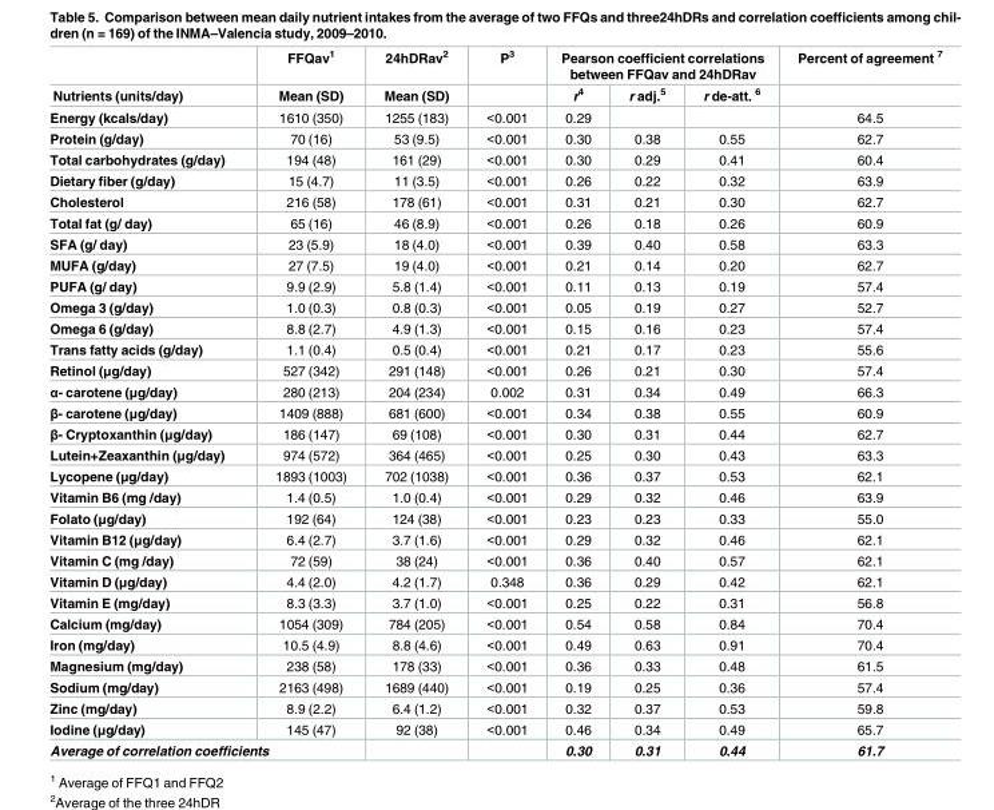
<table><thead><tr><td rowspan="2">Nutrients (units/day)</td><td rowspan="2">FFQav<sup>1</sup> Mean (SD)</td><td rowspan="2">24hDRav<sup>2</sup> Mean (SD)</td><td rowspan="2">P<sup>3</sup></td><td colspan="3">Pearson coefficient correlations between FFQav and 24hDRav</td><td rowspan="2">Percent of agreement <sup>7</sup></td></tr><tr><td>r<sup>4</sup></td><td>r adj.<sup>5</sup></td><td>r de-att. <sup>6</sup></td></tr></thead><tbody><tr><td>Energy (kcals/day)</td><td>1610 (350)</td><td>1255 (183)</td><td>&lt;0.001</td><td>0.29</td><td></td><td></td><td>64.5</td></tr><tr><td>Protein (g/day)</td><td>70 (16)</td><td>53 (9.5)</td><td>&lt;0.001</td><td>0.30</td><td>0.38</td><td>0.55</td><td>62.7</td></tr><tr><td>Total carbohydrates (g/day)</td><td>194 (48)</td><td>161 (29)</td><td>&lt;0.001</td><td>0.30</td><td>0.29</td><td>0.41</td><td>60.4</td></tr><tr><td>Dietary fiber (g/day)</td><td>15 (4.7)</td><td>11 (3.5)</td><td>&lt;0.001</td><td>0.26</td><td>0.22</td><td>0.32</td><td>63.9</td></tr><tr><td>Cholesterol</td><td>216 (58)</td><td>178 (61)</td><td>&lt;0.001</td><td>0.31</td><td>0.21</td><td>0.30</td><td>62.7</td></tr><tr><td>Total fat (g/ day)</td><td>65 (16)</td><td>46 (8.9)</td><td>&lt;0.001</td><td>0.26</td><td>0.18</td><td>0.26</td><td>60.9</td></tr><tr><td>SFA (g/ day)</td><td>23 (5.9)</td><td>18 (4.0)</td><td>&lt;0.001</td><td>0.39</td><td>0.40</td><td>0.58</td><td>63.3</td></tr><tr><td>MUFA (g/day)</td><td>27 (7.5)</td><td>19 (4.0)</td><td>&lt;0.001</td><td>0.21</td><td>0.14</td><td>0.20</td><td>62.7</td></tr><tr><td>PUFA (g/ day)</td><td>9.9 (2.9)</td><td>5.8 (1.4)</td><td>&lt;0.001</td><td>0.11</td><td>0.13</td><td>0.19</td><td>57.4</td></tr><tr><td>Omega 3 (g/day)</td><td>1.0 (0.3)</td><td>0.8 (0.3)</td><td>&lt;0.001</td><td>0.05</td><td>0.19</td><td>0.27</td><td>52.7</td></tr><tr><td>Omega 6 (g/day)</td><td>8.8 (2.7)</td><td>4.9 (1.3)</td><td>&lt;0.001</td><td>0.15</td><td>0.16</td><td>0.23</td><td>57.4</td></tr><tr><td>Trans fatty acids (g/day)</td><td>1.1 (0.4)</td><td>0.5 (0.4)</td><td>&lt;0.001</td><td>0.21</td><td>0.17</td><td>0.23</td><td>55.6</td></tr><tr><td>Retinol (μg/day)</td><td>527 (342)</td><td>291 (148)</td><td>&lt;0.001</td><td>0.26</td><td>0.21</td><td>0.30</td><td>57.4</td></tr><tr><td>α- carotene (μg/day)</td><td>280 (213)</td><td>204 (234)</td><td>0.002</td><td>0.31</td><td>0.34</td><td>0.49</td><td>66.3</td></tr><tr><td>β- carotene (μg/day)</td><td>1409 (888)</td><td>681 (600)</td><td>&lt;0.001</td><td>0.34</td><td>0.38</td><td>0.55</td><td>60.9</td></tr><tr><td>β- Cryptoxanthin (μg/day)</td><td>186 (147)</td><td>69 (108)</td><td>&lt;0.001</td><td>0.30</td><td>0.31</td><td>0.44</td><td>62.7</td></tr><tr><td>Lutein+Zeaxanthin (μg/day)</td><td>974 (572)</td><td>364 (465)</td><td>&lt;0.001</td><td>0.25</td><td>0.30</td><td>0.43</td><td>63.3</td></tr><tr><td>Lycopene (μg/day)</td><td>1893 (1003)</td><td>702 (1038)</td><td>&lt;0.001</td><td>0.36</td><td>0.37</td><td>0.53</td><td>62.1</td></tr><tr><td>Vitamin B6 (mg /day)</td><td>1.4 (0.5)</td><td>1.0 (0.4)</td><td>&lt;0.001</td><td>0.29</td><td>0.32</td><td>0.46</td><td>63.9</td></tr><tr><td>Folato (μg/day)</td><td>192 (64)</td><td>124 (38)</td><td>&lt;0.001</td><td>0.23</td><td>0.23</td><td>0.33</td><td>55.0</td></tr><tr><td>Vitamin B12 (μg/day)</td><td>6.4 (2.7)</td><td>3.7 (1.6)</td><td>&lt;0.001</td><td>0.29</td><td>0.32</td><td>0.46</td><td>62.1</td></tr><tr><td>Vitamin C (mg /day)</td><td>72 (59)</td><td>38 (24)</td><td>&lt;0.001</td><td>0.36</td><td>0.40</td><td>0.57</td><td>62.1</td></tr><tr><td>Vitamin D (μg/day)</td><td>4.4 (2.0)</td><td>4.2 (1.7)</td><td>0.348</td><td>0.36</td><td>0.29</td><td>0.42</td><td>62.1</td></tr><tr><td>Vitamin E (mg/day)</td><td>8.3 (3.3)</td><td>3.7 (1.0)</td><td>&lt;0.001</td><td>0.25</td><td>0.22</td><td>0.31</td><td>56.8</td></tr><tr><td>Calcium (mg/day)</td><td>1054 (309)</td><td>784 (205)</td><td>&lt;0.001</td><td>0.54</td><td>0.58</td><td>0.84</td><td>70.4</td></tr><tr><td>Iron (mg/day)</td><td>10.5 (4.9)</td><td>8.8 (4.6)</td><td>&lt;0.001</td><td>0.49</td><td>0.63</td><td>0.91</td><td>70.4</td></tr><tr><td>Magnesium (mg/day)</td><td>238 (58)</td><td>178 (33)</td><td>&lt;0.001</td><td>0.36</td><td>0.33</td><td>0.48</td><td>61.5</td></tr><tr><td>Sodium (mg/day)</td><td>2163 (498)</td><td>1689 (440)</td><td>&lt;0.001</td><td>0.19</td><td>0.25</td><td>0.36</td><td>57.4</td></tr><tr><td>Zinc (mg/day)</td><td>8.9 (2.2)</td><td>6.4 (1.2)</td><td>&lt;0.001</td><td>0.32</td><td>0.37</td><td>0.53</td><td>59.8</td></tr><tr><td>Iodine (μg/day)</td><td>145 (47)</td><td>92 (38)</td><td>&lt;0.001</td><td>0.46</td><td>0.34</td><td>0.49</td><td>65.7</td></tr><tr><td colspan="2">Average of correlation coefficients</td><td></td><td></td><td>0.30</td><td>0.31</td><td>0.44</td><td>61.7</td></tr></tbody></table>